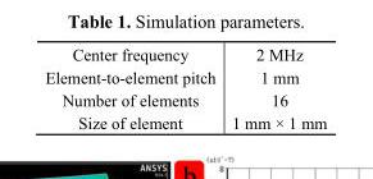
<table><tbody><tr><td>Center frequency</td><td>2 MHz</td></tr><tr><td>Element-to-element pitch</td><td>1 mm</td></tr><tr><td>Number of elements</td><td>16</td></tr><tr><td>Size of element</td><td>1 mm × 1 mm</td></tr></tbody></table>